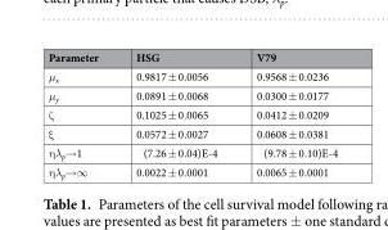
<table><thead><tr><td>Parameter</td><td>HSG</td><td>V79</td></tr></thead><tbody><tr><td>μ<sub>x</sub></td><td>0.9817 ± 0.0056</td><td>0.9568 ± 0.0236</td></tr><tr><td>μ<sub>y</sub></td><td>0.0891 ± 0.0068</td><td>0.0300 ± 0.0177</td></tr><tr><td>ζ</td><td>0.1025 ± 0.0065</td><td>0.0412 ± 0.0209</td></tr><tr><td>ξ</td><td>0.0572 ± 0.0027</td><td>0.0608 ± 0.0381</td></tr><tr><td>ηλ<sub>p</sub>→1</td><td>(7.26 ± 0.04)E-4</td><td>(9.78 ± 0.10)E-4</td></tr><tr><td>ηλ<sub>p</sub>→∞</td><td>0.0022 ± 0.0001</td><td>0.0065 ± 0.0001</td></tr></tbody></table>